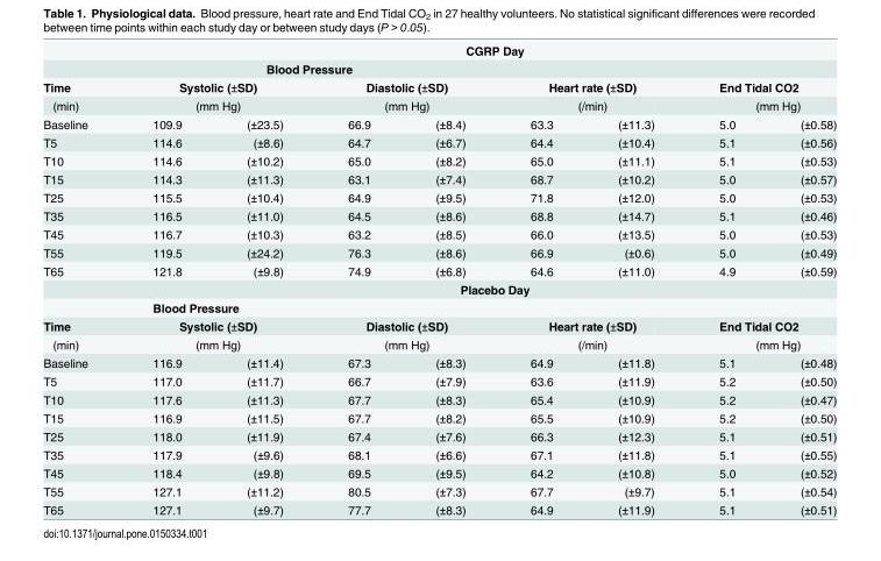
<table><thead><tr><td></td><td colspan="8">CGRP Day</td></tr></thead><tbody><tr><td></td><td colspan="4">Blood Pressure</td><td colspan="4"></td></tr><tr><td>Time</td><td colspan="2">Systolic (±SD)</td><td colspan="2">Diastolic (±SD)</td><td colspan="2">Heart rate (±SD)</td><td colspan="2">End Tidal CO2</td></tr><tr><td>(min)</td><td colspan="2">(mm Hg)</td><td colspan="2">(mm Hg)</td><td colspan="2">(/min)</td><td colspan="2">(mm Hg)</td></tr><tr><td>Baseline</td><td>109.9</td><td>(±23.5)</td><td>66.9</td><td>(±8.4)</td><td>63.3</td><td>(±11.3)</td><td>5.0</td><td>(±0.58)</td></tr><tr><td>T5</td><td>114.6</td><td>(±8.6)</td><td>64.7</td><td>(±6.7)</td><td>64.4</td><td>(±10.4)</td><td>5.1</td><td>(±0.56)</td></tr><tr><td>T10</td><td>114.6</td><td>(±10.2)</td><td>65.0</td><td>(±8.2)</td><td>65.0</td><td>(±11.1)</td><td>5.1</td><td>(±0.53)</td></tr><tr><td>T15</td><td>114.3</td><td>(±11.3)</td><td>63.1</td><td>(±7.4)</td><td>68.7</td><td>(±10.2)</td><td>5.0</td><td>(±0.57)</td></tr><tr><td>T25</td><td>115.5</td><td>(±10.4)</td><td>64.9</td><td>(±9.5)</td><td>71.8</td><td>(±12.0)</td><td>5.0</td><td>(±0.53)</td></tr><tr><td>T35</td><td>116.5</td><td>(±11.0)</td><td>64.5</td><td>(±8.6)</td><td>68.8</td><td>(±14.7)</td><td>5.1</td><td>(±0.46)</td></tr><tr><td>T45</td><td>116.7</td><td>(±10.3)</td><td>63.2</td><td>(±8.5)</td><td>66.0</td><td>(±13.5)</td><td>5.0</td><td>(±0.53)</td></tr><tr><td>T55</td><td>119.5</td><td>(±24.2)</td><td>76.3</td><td>(±8.6)</td><td>66.9</td><td>(±0.6)</td><td>5.0</td><td>(±0.49)</td></tr><tr><td rowspan="3">T65</td><td>121.8</td><td>(±9.8)</td><td>74.9</td><td>(±6.8)</td><td>64.6</td><td>(±11.0)</td><td>4.9</td><td>(±0.59)</td></tr><tr><td colspan="8">Placebo Day</td></tr><tr><td colspan="4">Blood Pressure</td><td colspan="4"></td></tr><tr><td>Time</td><td colspan="2">Systolic (±SD)</td><td colspan="2">Diastolic (±SD)</td><td colspan="2">Heart rate (±SD)</td><td colspan="2">End Tidal CO2</td></tr><tr><td>(min)</td><td colspan="2">(mm Hg)</td><td colspan="2">(mm Hg)</td><td colspan="2">(/min)</td><td colspan="2">(mm Hg)</td></tr><tr><td>Baseline</td><td>116.9</td><td>(±11.4)</td><td>67.3</td><td>(±8.3)</td><td>64.9</td><td>(±11.8)</td><td>5.1</td><td>(±0.48)</td></tr><tr><td>T5</td><td>117.0</td><td>(±11.7)</td><td>66.7</td><td>(±7.9)</td><td>63.6</td><td>(±11.9)</td><td>5.2</td><td>(±0.50)</td></tr><tr><td>T10</td><td>117.6</td><td>(±11.3)</td><td>67.7</td><td>(±8.3)</td><td>65.4</td><td>(±10.9)</td><td>5.2</td><td>(±0.47)</td></tr><tr><td>T15</td><td>116.9</td><td>(±11.5)</td><td>67.7</td><td>(±8.2)</td><td>65.5</td><td>(±10.9)</td><td>5.2</td><td>(±0.50)</td></tr><tr><td>T25</td><td>118.0</td><td>(±11.9)</td><td>67.4</td><td>(±7.6)</td><td>66.3</td><td>(±12.3)</td><td>5.1</td><td>(±0.51)</td></tr><tr><td>T35</td><td>117.9</td><td>(±9.6)</td><td>68.1</td><td>(±6.6)</td><td>67.1</td><td>(±11.8)</td><td>5.1</td><td>(±0.55)</td></tr><tr><td>T45</td><td>118.4</td><td>(±9.8)</td><td>69.5</td><td>(±9.5)</td><td>64.2</td><td>(±10.8)</td><td>5.0</td><td>(±0.52)</td></tr><tr><td>T55</td><td>127.1</td><td>(±11.2)</td><td>80.5</td><td>(±7.3)</td><td>67.7</td><td>(±9.7)</td><td>5.1</td><td>(±0.54)</td></tr><tr><td>T65</td><td>127.1</td><td>(±9.7)</td><td>77.7</td><td>(±8.3)</td><td>64.9</td><td>(±11.9)</td><td>5.1</td><td>(±0.51)</td></tr></tbody></table>